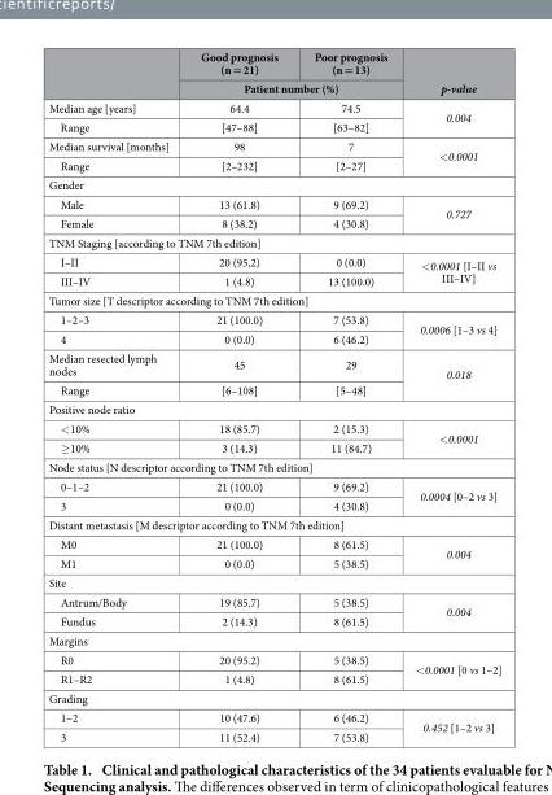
<table><thead><tr><td rowspan="2"></td><td>Good prognosis (n = 21)</td><td>Poor prognosis (n = 13)</td><td rowspan="2">p-value</td></tr><tr><td colspan="2">Patient number (%)</td></tr></thead><tbody><tr><td>Median age [years]</td><td>64.4</td><td>74.5</td><td rowspan="2">0.004</td></tr><tr><td>Range</td><td>[47–88]</td><td>[63–82]</td></tr><tr><td>Median survival [months]</td><td>98</td><td>7</td><td rowspan="2">&lt;0.0001</td></tr><tr><td>Range</td><td>[2–232]</td><td>[2–27]</td></tr><tr><td colspan="4">Gender</td></tr><tr><td>Male</td><td>13 (61.8)</td><td>9 (69.2)</td><td rowspan="2">0.727</td></tr><tr><td>Female</td><td>8 (38.2)</td><td>4 (30.8)</td></tr><tr><td colspan="4">TNM Staging [according to TNM 7th edition]</td></tr><tr><td>I–II</td><td>20 (95,2)</td><td>0 (0.0)</td><td rowspan="2">&lt;0.0001 [I–II vs III–IV]</td></tr><tr><td>III–IV</td><td>1 (4.8)</td><td>13 (100.0)</td></tr><tr><td colspan="4">Tumor size [T descriptor according to TNM 7th edition]</td></tr><tr><td>1–2–3</td><td>21 (100.0)</td><td>7 (53.8)</td><td rowspan="2">0.0006 [1–3 vs 4]</td></tr><tr><td>4</td><td>0 (0.0)</td><td>6 (46.2)</td></tr><tr><td>Median resected lymph nodes</td><td>45</td><td>29</td><td rowspan="2">0.018</td></tr><tr><td>Range</td><td>[6–108]</td><td>[5–48]</td></tr><tr><td colspan="4">Positive node ratio</td></tr><tr><td>&lt; 10%</td><td>18 (85.7)</td><td>2 (15.3)</td><td rowspan="2">&lt;0.0001</td></tr><tr><td>≥ 10%</td><td>3 (14.3)</td><td>11 (84.7)</td></tr><tr><td colspan="4">Node status [N descriptor according to TNM 7th edition]</td></tr><tr><td>0–1–2</td><td>21 (100.0)</td><td>9 (69.2)</td><td rowspan="2">0.0004 [0–2 vs 3]</td></tr><tr><td>3</td><td>0 (0.0)</td><td>4 (30.8)</td></tr><tr><td colspan="4">Distant metastasis [M descriptor according to TNM 7th edition]</td></tr><tr><td>M0</td><td>21 (100.0)</td><td>8 (61.5)</td><td rowspan="2">0.004</td></tr><tr><td>M1</td><td>0 (0.0)</td><td>5 (38.5)</td></tr><tr><td colspan="4">Site</td></tr><tr><td>Antrum/Body</td><td>19 (85.7)</td><td>5 (38.5)</td><td rowspan="2">0.004</td></tr><tr><td>Fundus</td><td>2 (14.3)</td><td>8 (61.5)</td></tr><tr><td colspan="4">Margins</td></tr><tr><td>R0</td><td>20 (95.2)</td><td>5 (38.5)</td><td rowspan="2">&lt;0.0001 [0 vs 1–2]</td></tr><tr><td>R1–R2</td><td>1 (4.8)</td><td>8 (61.5)</td></tr><tr><td colspan="4">Grading</td></tr><tr><td>1–2</td><td>10 (47.6)</td><td>6 (46.2)</td><td rowspan="2">0.452 [1–2 vs 3]</td></tr><tr><td>3</td><td>11 (52.4)</td><td>7 (53.8)</td></tr></tbody></table>